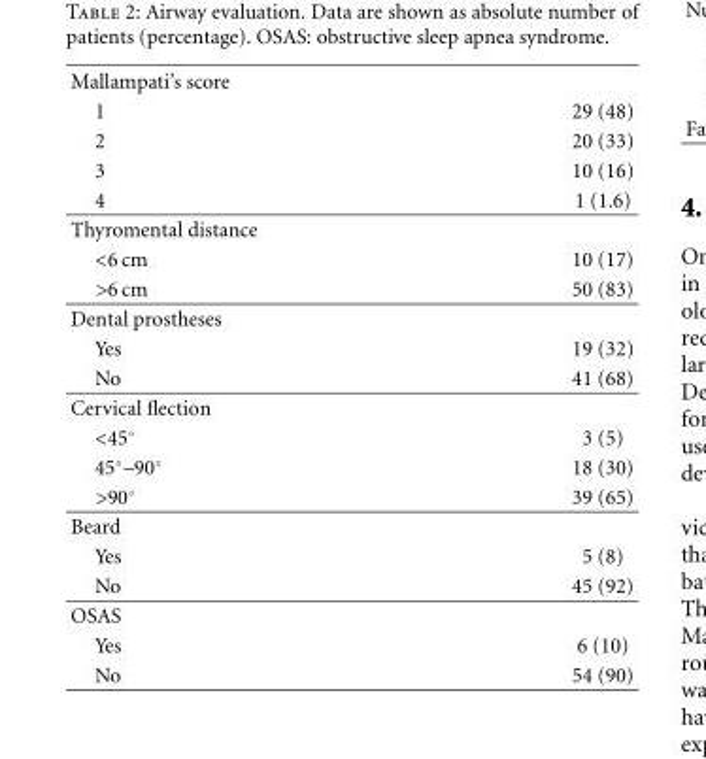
<table><tbody><tr><td colspan="2">Mallampati’s score</td></tr><tr><td>1</td><td>29 (48)</td></tr><tr><td>2</td><td>20 (33)</td></tr><tr><td>3</td><td>10 (16)</td></tr><tr><td>4</td><td>1 (1.6)</td></tr><tr><td colspan="2">Thyromental distance</td></tr><tr><td>&lt;6 cm</td><td>10 (17)</td></tr><tr><td>&gt;6 cm</td><td>50 (83)</td></tr><tr><td colspan="2">Dental prostheses</td></tr><tr><td>Yes</td><td>19 (32)</td></tr><tr><td>No</td><td>41 (68)</td></tr><tr><td colspan="2">Cervical flection</td></tr><tr><td>&lt;45◦</td><td>3 (5)</td></tr><tr><td>45◦–90◦</td><td>18 (30)</td></tr><tr><td>&gt;90◦</td><td>39 (65)</td></tr><tr><td colspan="2">Beard</td></tr><tr><td>Yes</td><td>5 (8)</td></tr><tr><td>No</td><td>45 (92)</td></tr><tr><td colspan="2">OSAS</td></tr><tr><td>Yes</td><td>6 (10)</td></tr><tr><td>No</td><td>54 (90)</td></tr></tbody></table>